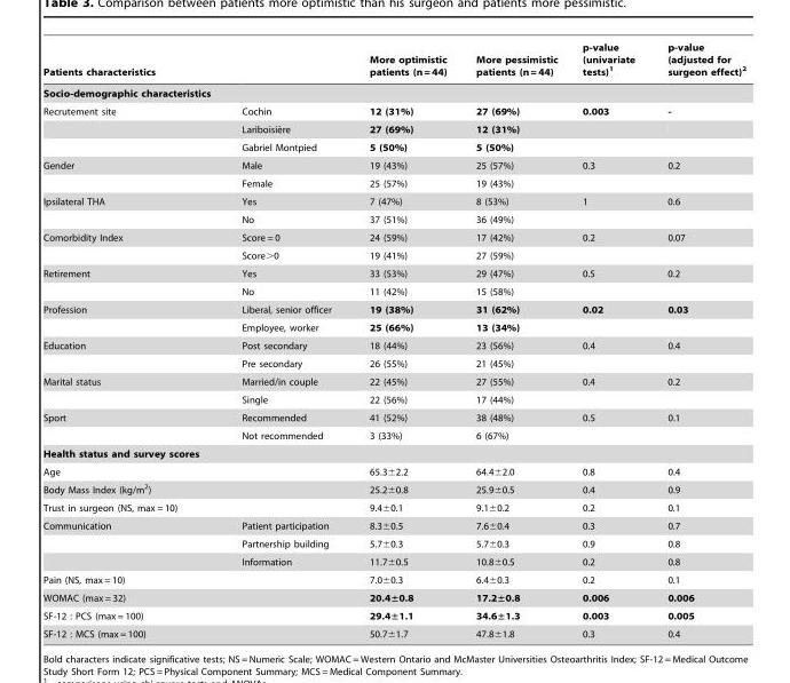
<table><thead><tr><td>Patients characteristics</td><td></td><td>More optimistic patients (n = 44)</td><td>More pessimistic patients (n = 44)</td><td>p-value (univariate tests)<sup>1</sup></td><td>p-value (adjusted for surgeon effect)<sup>2</sup></td></tr></thead><tbody><tr><td colspan="6">Socio-demographic characteristics</td></tr><tr><td rowspan="3">Recrutement site</td><td>Cochin</td><td>12 (31%)</td><td>27 (69%)</td><td>0.003</td><td>-</td></tr><tr><td>Lariboisie`re</td><td>27 (69%)</td><td>12 (31%)</td><td></td><td></td></tr><tr><td>Gabriel Montpied</td><td>5 (50%)</td><td>5 (50%)</td><td></td><td></td></tr><tr><td rowspan="2">Gender</td><td>Male</td><td>19 (43%)</td><td>25 (57%)</td><td>0.3</td><td>0.2</td></tr><tr><td>Female</td><td>25 (57%)</td><td>19 (43%)</td><td></td><td></td></tr><tr><td rowspan="2">Ipsilateral THA</td><td>Yes</td><td>7 (47%)</td><td>8 (53%)</td><td>1</td><td>0.6</td></tr><tr><td>No</td><td>37 (51%)</td><td>36 (49%)</td><td></td><td></td></tr><tr><td rowspan="2">Comorbidity Index</td><td>Score = 0</td><td>24 (59%)</td><td>17 (42%)</td><td>0.2</td><td>0.07</td></tr><tr><td>Score&gt;0</td><td>19 (41%)</td><td>27 (59%)</td><td></td><td></td></tr><tr><td rowspan="2">Retirement</td><td>Yes</td><td>33 (53%)</td><td>29 (47%)</td><td>0.5</td><td>0.2</td></tr><tr><td>No</td><td>11 (42%)</td><td>15 (58%)</td><td></td><td></td></tr><tr><td rowspan="2">Profession</td><td>Liberal, senior officer</td><td>19 (38%)</td><td>31 (62%)</td><td>0.02</td><td>0.03</td></tr><tr><td>Employee, worker</td><td>25 (66%)</td><td>13 (34%)</td><td></td><td></td></tr><tr><td rowspan="2">Education</td><td>Post secondary</td><td>18 (44%)</td><td>23 (56%)</td><td>0.4</td><td>0.4</td></tr><tr><td>Pre secondary</td><td>26 (55%)</td><td>21 (45%)</td><td></td><td></td></tr><tr><td rowspan="2">Marital status</td><td>Married/in couple</td><td>22 (45%)</td><td>27 (55%)</td><td>0.4</td><td>0.2</td></tr><tr><td>Single</td><td>22 (56%)</td><td>17 (44%)</td><td></td><td></td></tr><tr><td rowspan="2">Sport</td><td>Recommended</td><td>41 (52%)</td><td>38 (48%)</td><td>0.5</td><td>0.1</td></tr><tr><td>Not recommended</td><td>3 (33%)</td><td>6 (67%)</td><td></td><td></td></tr><tr><td colspan="6">Health status and survey scores</td></tr><tr><td colspan="2">Age</td><td>65.3±2.2</td><td>64.4±2.0</td><td>0.8</td><td>0.4</td></tr><tr><td colspan="2">Body Mass Index (kg/m<sup>2</sup>)</td><td>25.2±0.8</td><td>25.9±0.5</td><td>0.4</td><td>0.9</td></tr><tr><td colspan="2">Trust in surgeon (NS, max = 10)</td><td>9.4±0.1</td><td>9.1±0.2</td><td>0.2</td><td>0.1</td></tr><tr><td rowspan="3">Communication</td><td>Patient participation</td><td>8.3±0.5</td><td>7.6±0.4</td><td>0.3</td><td>0.7</td></tr><tr><td>Partnership building</td><td>5.7±0.3</td><td>5.7±0.3</td><td>0.9</td><td>0.8</td></tr><tr><td>Information</td><td>11.7±0.5</td><td>10.8±0.5</td><td>0.2</td><td>0.8</td></tr><tr><td colspan="2">Pain (NS, max = 10)</td><td>7.0±0.3</td><td>6.4±0.3</td><td>0.2</td><td>0.1</td></tr><tr><td colspan="2">WOMAC (max = 32)</td><td>20.4±0.8</td><td>17.2±0.8</td><td>0.006</td><td>0.006</td></tr><tr><td colspan="2">SF-12 : PCS (max = 100)</td><td>29.4±1.1</td><td>34.6±1.3</td><td>0.003</td><td>0.005</td></tr><tr><td colspan="2">SF-12 : MCS (max = 100)</td><td>50.7±1.7</td><td>47.8±1.8</td><td>0.3</td><td>0.4</td></tr></tbody></table>